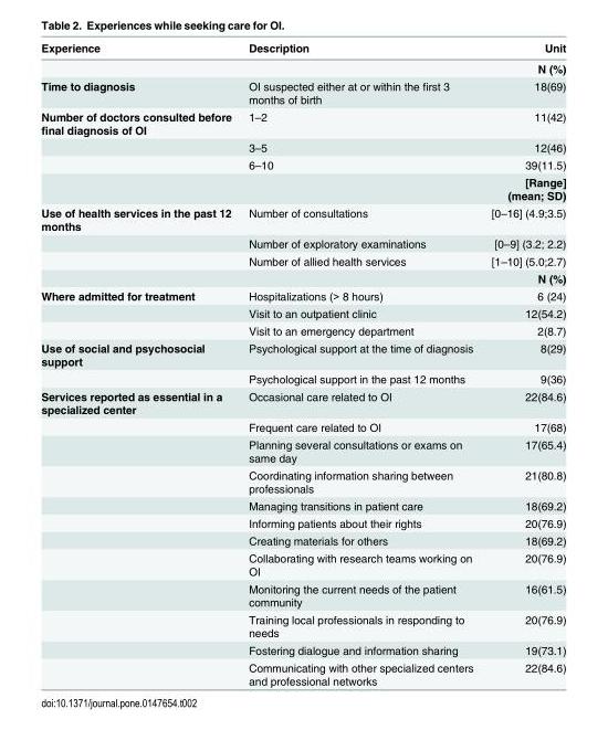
<table><thead><tr><td>Experience</td><td>Description</td><td>Unit</td></tr></thead><tbody><tr><td></td><td></td><td>N (%)</td></tr><tr><td>Time to diagnosis</td><td>OI suspected either at or within the first 3 months of birth</td><td>18(69)</td></tr><tr><td rowspan="4">Number of doctors consulted before final diagnosis of OI</td><td>1–2</td><td>11(42)</td></tr><tr><td>3–5</td><td>12(46)</td></tr><tr><td>6–10</td><td>39(11.5)</td></tr><tr><td></td><td>[Range] (mean; SD)</td></tr><tr><td rowspan="4">Use of health services in the past 12 months</td><td>Number of consultations</td><td>[0–16] (4.9;3.5)</td></tr><tr><td>Number of exploratory examinations</td><td>[0–9] (3.2; 2.2)</td></tr><tr><td>Number of allied health services</td><td>[1–10] (5.0;2.7)</td></tr><tr><td></td><td>N (%)</td></tr><tr><td rowspan="3">Where admitted for treatment</td><td>Hospitalizations (&gt; 8 hours)</td><td>6 (24)</td></tr><tr><td>Visit to an outpatient clinic</td><td>12(54.2)</td></tr><tr><td>Visit to an emergency department</td><td>2(8.7)</td></tr><tr><td rowspan="2">Use of social and psychosocial support</td><td>Psychological support at the time of diagnosis</td><td>8(29)</td></tr><tr><td>Psychological support in the past 12 months</td><td>9(36)</td></tr><tr><td rowspan="12">Services reported as essential in a specialized center</td><td>Occasional care related to OI</td><td>22(84.6)</td></tr><tr><td>Frequent care related to OI</td><td>17(68)</td></tr><tr><td>Planning several consultations or exams on same day</td><td>17(65.4)</td></tr><tr><td>Coordinating information sharing between professionals</td><td>21(80.8)</td></tr><tr><td>Managing transitions in patient care</td><td>18(69.2)</td></tr><tr><td>Informing patients about their rights</td><td>20(76.9)</td></tr><tr><td>Creating materials for others</td><td>18(69.2)</td></tr><tr><td>Collaborating with research teams working on OI</td><td>20(76.9)</td></tr><tr><td>Monitoring the current needs of the patient community</td><td>16(61.5)</td></tr><tr><td>Training local professionals in responding to needs</td><td>20(76.9)</td></tr><tr><td>Fostering dialogue and information sharing</td><td>19(73.1)</td></tr><tr><td>Communicating with other specialized centers and professional networks</td><td>22(84.6)</td></tr></tbody></table>